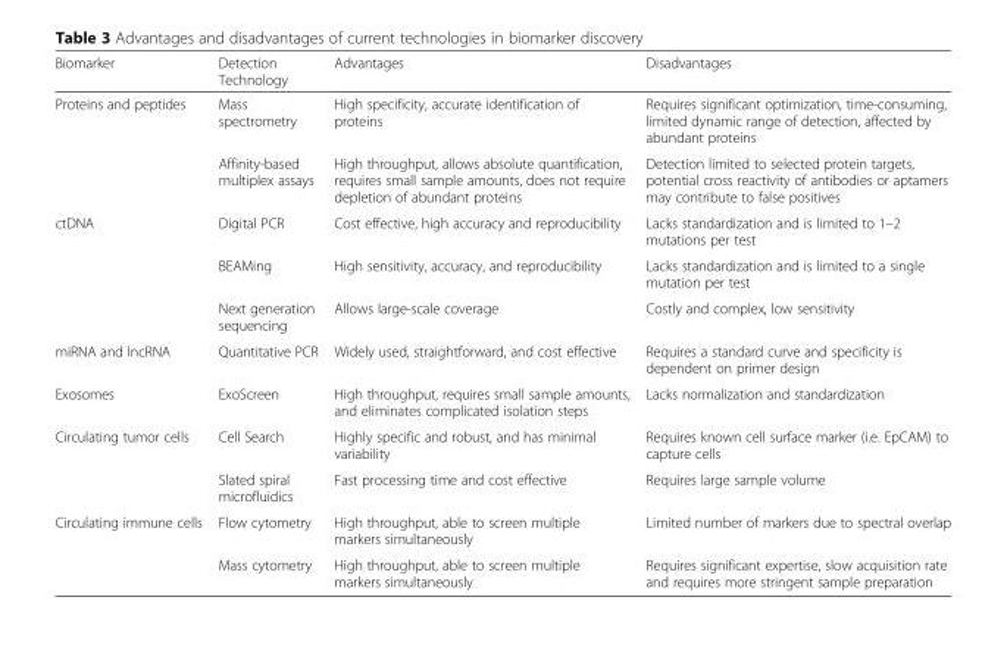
<table><thead><tr><td>Biomarker</td><td>Detection Technology</td><td>Advantages</td><td>Disadvantages</td></tr></thead><tbody><tr><td rowspan="2">Proteins and peptides</td><td>Mass spectrometry</td><td>High specificity, accurate identification of proteins</td><td>Requires significant optimization, time-consuming, limited dynamic range of detection, affected by abundant proteins</td></tr><tr><td>Affinity-based multiplex assays</td><td>High throughput, allows absolute quantification, requires small sample amounts, does not require depletion of abundant proteins</td><td>Detection limited to selected protein targets, potential cross reactivity of antibodies or aptamers may contribute to false positives</td></tr><tr><td rowspan="3">ctDNA</td><td>Digital PCR</td><td>Cost effective, high accuracy and reproducibility</td><td>Lacks standardization and is limited to 1–2 mutations per test</td></tr><tr><td>BEAMing</td><td>High sensitivity, accuracy, and reproducibility</td><td>Lacks standardization and is limited to a single mutation per test</td></tr><tr><td>Next generation sequencing</td><td>Allows large-scale coverage</td><td>Costly and complex, low sensitivity</td></tr><tr><td>miRNA and lncRNA</td><td>Quantitative PCR</td><td>Widely used, straightforward, and cost effective</td><td>Requires a standard curve and specificity is dependent on primer design</td></tr><tr><td>Exosomes</td><td>ExoScreen</td><td>High throughput, requires small sample amounts, and eliminates complicated isolation steps</td><td>Lacks normalization and standardization</td></tr><tr><td rowspan="2">Circulating tumor cells</td><td>Cell Search</td><td>Highly specific and robust, and has minimal variability</td><td>Requires known cell surface marker (i.e. EpCAM) to capture cells</td></tr><tr><td>Slated spiral microfluidics</td><td>Fast processing time and cost effective</td><td>Requires large sample volume</td></tr><tr><td rowspan="2">Circulating immune cells</td><td>Flow cytometry</td><td>High throughput, able to screen multiple markers simultaneously</td><td>Limited number of markers due to spectral overlap</td></tr><tr><td>Mass cytometry</td><td>High throughput, able to screen multiple markers simultaneously</td><td>Requires significant expertise, slow acquisition rate and requires more stringent sample preparation</td></tr></tbody></table>